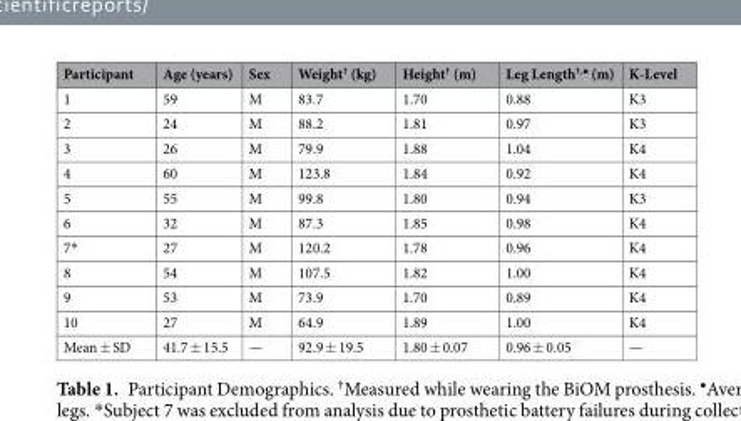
<table><thead><tr><td>Participant</td><td>Age (years)</td><td>Sex</td><td>Weight<sup>†</sup> (kg)</td><td>Height<sup>†</sup> (m)</td><td>Leg Length<sup>†,•</sup> (m)</td><td>K-Level</td></tr></thead><tbody><tr><td>1</td><td>59</td><td>M</td><td>83.7</td><td>1.70</td><td>0.88</td><td>K3</td></tr><tr><td>2</td><td>24</td><td>M</td><td>88.2</td><td>1.81</td><td>0.97</td><td>K3</td></tr><tr><td>3</td><td>26</td><td>M</td><td>79.9</td><td>1.88</td><td>1.04</td><td>K4</td></tr><tr><td>4</td><td>60</td><td>M</td><td>123.8</td><td>1.84</td><td>0.92</td><td>K4</td></tr><tr><td>5</td><td>55</td><td>M</td><td>99.8</td><td>1.80</td><td>0.94</td><td>K3</td></tr><tr><td>6</td><td>32</td><td>M</td><td>87.3</td><td>1.85</td><td>0.98</td><td>K4</td></tr><tr><td>7*</td><td>27</td><td>M</td><td>120.2</td><td>1.78</td><td>0.96</td><td>K4</td></tr><tr><td>8</td><td>54</td><td>M</td><td>107.5</td><td>1.82</td><td>1.00</td><td>K4</td></tr><tr><td>9</td><td>53</td><td>M</td><td>73.9</td><td>1.70</td><td>0.89</td><td>K4</td></tr><tr><td>10</td><td>27</td><td>M</td><td>64.9</td><td>1.89</td><td>1.00</td><td>K4</td></tr><tr><td>Mean ± SD</td><td>41.7 ± 15.5</td><td>—</td><td>92.9 ± 19.5</td><td>1.80 ± 0.07</td><td>0.96 ± 0.05</td><td>—</td></tr></tbody></table>